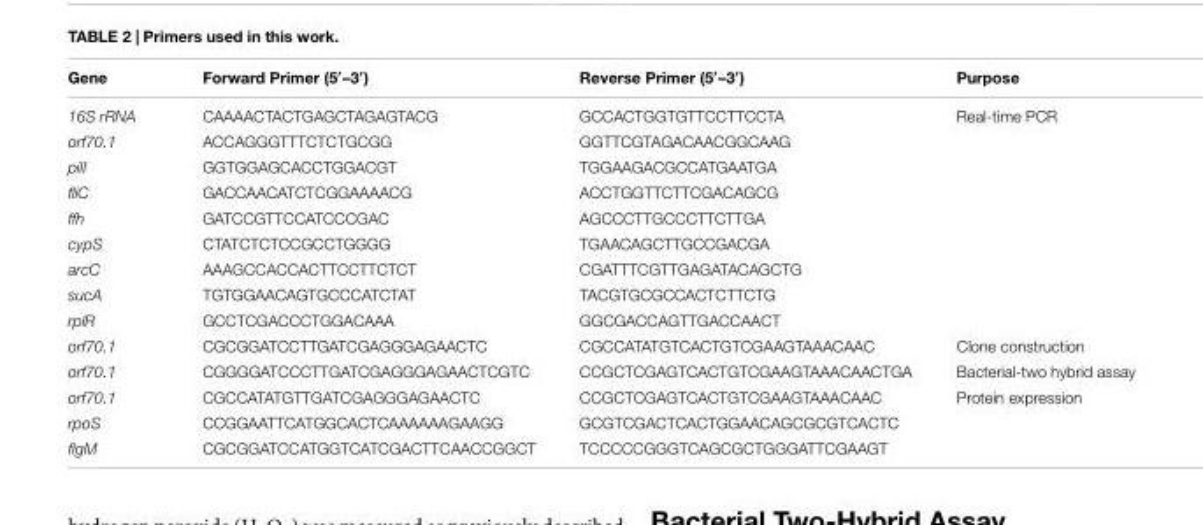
<table><thead><tr><td>Gene</td><td>Forward Primer (5′–3′)</td><td>Reverse Primer (5′–3′)</td><td>Purpose</td></tr></thead><tbody><tr><td>16S rRNA</td><td>CAAAACTACTGAGCTAGAGTACG</td><td>GCCACTGGTGTTCCTTCCTA</td><td>Real-time PCR</td></tr><tr><td>orf70.1</td><td>ACCAGGGTTTCTCTGCGG</td><td>GGTTCGTAGACAACGGCAAG</td><td></td></tr><tr><td>pilI</td><td>GGTGGAGCACCTGGACGT</td><td>TGGAAGACGCCATGAATGA</td><td></td></tr><tr><td>fliC</td><td>GACCAACATCTCGGAAAACG</td><td>ACCTGGTTCTTCGACAGCG</td><td></td></tr><tr><td>ffh</td><td>GATCCGTTCCATCCCGAC</td><td>AGCCCTTGCCCTTCTTGA</td><td></td></tr><tr><td>cypS</td><td>CTATCTCTCCGCCTGGGG</td><td>TGAACAGCTTGCCGACGA</td><td></td></tr><tr><td>arcC</td><td>AAAGCCACCACTTCCTTCTCT</td><td>CGATTTCGTTGAGATACAGCTG</td><td></td></tr><tr><td>sucA</td><td>TGTGGAACAGTGCCCATCTAT</td><td>TACGTGCGCCACTCTTCTG</td><td></td></tr><tr><td>rplR</td><td>GCCTCGACCCTGGACAAA</td><td>GGCGACCAGTTGACCAACT</td><td></td></tr><tr><td>orf70.1</td><td>CGCGGATCCTTGATCGAGGGAGAACTC</td><td>CGCCATATGTCACTGTCGAAGTAAACAAC</td><td>Clone construction</td></tr><tr><td>orf70.1</td><td>CGGGGATCCCTTGATCGAGGGAGAACTCGTC</td><td>CCGCTCGAGTCACTGTCGAAGTAAACAACTGA</td><td>Bacterial-two hybrid assay</td></tr><tr><td>orf70.1</td><td>CGCCATATGTTGATCGAGGGAGAACTC</td><td>CCGCTCGAGTCACTGTCGAAGTAAACAAC</td><td>Protein expression</td></tr><tr><td>rpoS</td><td>CCGGAATTCATGGCACTCAAAAAAGAAGG</td><td>GCGTCGACTCACTGGAACAGCGCGTCACTC</td><td></td></tr><tr><td>flgM</td><td>CGCGGATCCATGGTCATCGACTTCAACCGGCT</td><td>TCCCCCGGGTCAGCGCTGGGATTCGAAGT</td><td></td></tr></tbody></table>